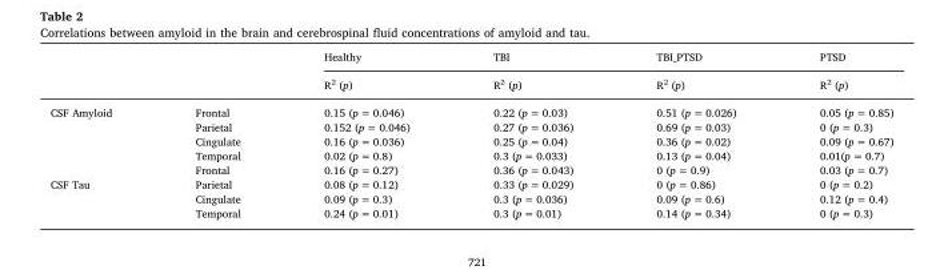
<table><thead><tr><td rowspan="2"></td><td rowspan="2"></td><td rowspan="2">Healthy R<sup>2</sup> (p)</td><td rowspan="2">TBI R<sup>2</sup> (p)</td><td rowspan="2">TBI_PTSD R<sup>2</sup> (p)</td><td rowspan="2">PTSD R<sup>2</sup> (p)</td></tr><tr></tr></thead><tbody><tr><td rowspan="5">CSF Amyloid</td><td>Frontal</td><td>0.15 (p = 0.046)</td><td>0.22 (p = 0.03)</td><td>0.51 (p = 0.026)</td><td>0.05 (p = 0.85)</td></tr><tr><td>Parietal</td><td>0.152 (p = 0.046)</td><td>0.27 (p = 0.036)</td><td>0.69 (p = 0.03)</td><td>0 (p = 0.3)</td></tr><tr><td>Cingulate</td><td>0.16 (p = 0.036)</td><td>0.25 (p = 0.04)</td><td>0.36 (p = 0.02)</td><td>0.09 (p = 0.67)</td></tr><tr><td>Temporal</td><td>0.02 (p = 0.8)</td><td>0.3 (p = 0.033)</td><td>0.13 (p = 0.04)</td><td>0.01(p = 0.7)</td></tr><tr><td>Frontal</td><td>0.16 (p = 0.27)</td><td>0.36 (p = 0.043)</td><td>0 (p = 0.9)</td><td>0.03 (p = 0.7)</td></tr><tr><td rowspan="3">CSF Tau</td><td>Parietal</td><td>0.08 (p = 0.12)</td><td>0.33 (p = 0.029)</td><td>0 (p = 0.86)</td><td>0 (p = 0.2)</td></tr><tr><td>Cingulate</td><td>0.09 (p = 0.3)</td><td>0.3 (p = 0.036)</td><td>0.09 (p = 0.6)</td><td>0.12 (p = 0.4)</td></tr><tr><td>Temporal</td><td>0.24 (p = 0.01)</td><td>0.3 (p = 0.01)</td><td>0.14 (p = 0.34)</td><td>0 (p = 0.3)</td></tr></tbody></table>